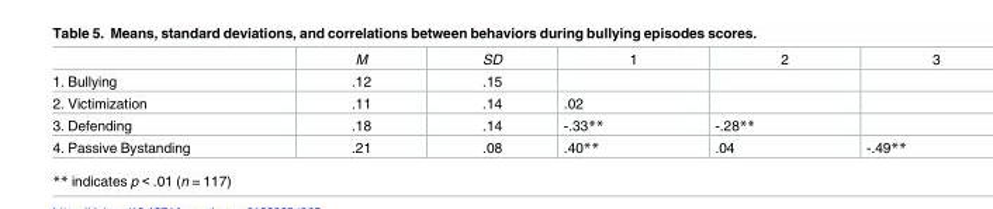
<table><thead><tr><td></td><td>M</td><td>SD</td><td>1</td><td>2</td><td>3</td></tr></thead><tbody><tr><td>1. Bullying</td><td>.12</td><td>.15</td><td></td><td></td><td></td></tr><tr><td>2. Victimization</td><td>.11</td><td>.14</td><td>.02</td><td></td><td></td></tr><tr><td>3. Defending</td><td>.18</td><td>.14</td><td>-.33**</td><td>-.28**</td><td></td></tr><tr><td>4. Passive Bystanding</td><td>.21</td><td>.08</td><td>.40**</td><td>.04</td><td>-.49**</td></tr></tbody></table>